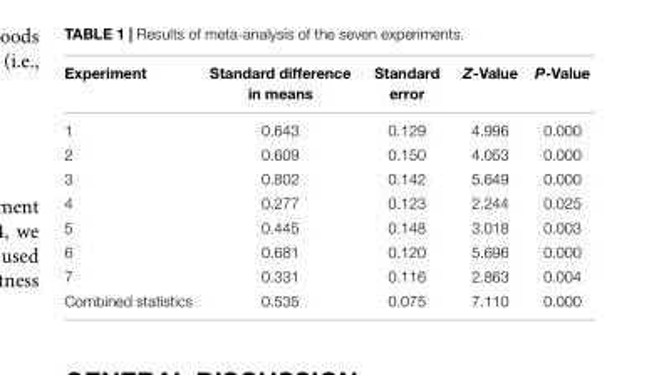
<table><thead><tr><td>Experiment</td><td>Standard difference in means</td><td>Standard error</td><td>Z-Value</td><td>P-Value</td></tr></thead><tbody><tr><td>1</td><td>0.643</td><td>0.129</td><td>4.996</td><td>0.000</td></tr><tr><td>2</td><td>0.609</td><td>0.150</td><td>4.053</td><td>0.000</td></tr><tr><td>3</td><td>0.802</td><td>0.142</td><td>5.649</td><td>0.000</td></tr><tr><td>4</td><td>0.277</td><td>0.123</td><td>2.244</td><td>0.025</td></tr><tr><td>5</td><td>0.445</td><td>0.148</td><td>3.018</td><td>0.003</td></tr><tr><td>6</td><td>0.681</td><td>0.120</td><td>5.696</td><td>0.000</td></tr><tr><td>7</td><td>0.331</td><td>0.116</td><td>2.863</td><td>0.004</td></tr><tr><td>Combined statistics</td><td>0.535</td><td>0.075</td><td>7.110</td><td>0.000</td></tr></tbody></table>